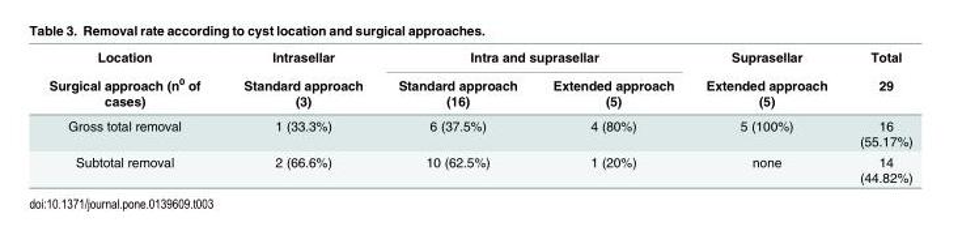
<table><thead><tr><td rowspan="2">Location Surgical approach (n<sup>0</sup> of cases)</td><td rowspan="2">Intrasellar Standard approach (3)</td><td colspan="2">Intra and suprasellar</td><td rowspan="2">Suprasellar Extended approach (5)</td><td rowspan="2">Total 29</td></tr><tr><td>Standard approach (16)</td><td>Extended approach (5)</td></tr></thead><tbody><tr><td>Gross total removal</td><td>1 (33.3%)</td><td>6 (37.5%)</td><td>4 (80%)</td><td>5 (100%)</td><td>16 (55.17%)</td></tr><tr><td>Subtotal removal</td><td>2 (66.6%)</td><td>10 (62.5%)</td><td>1 (20%)</td><td>none</td><td>14 (44.82%)</td></tr></tbody></table>